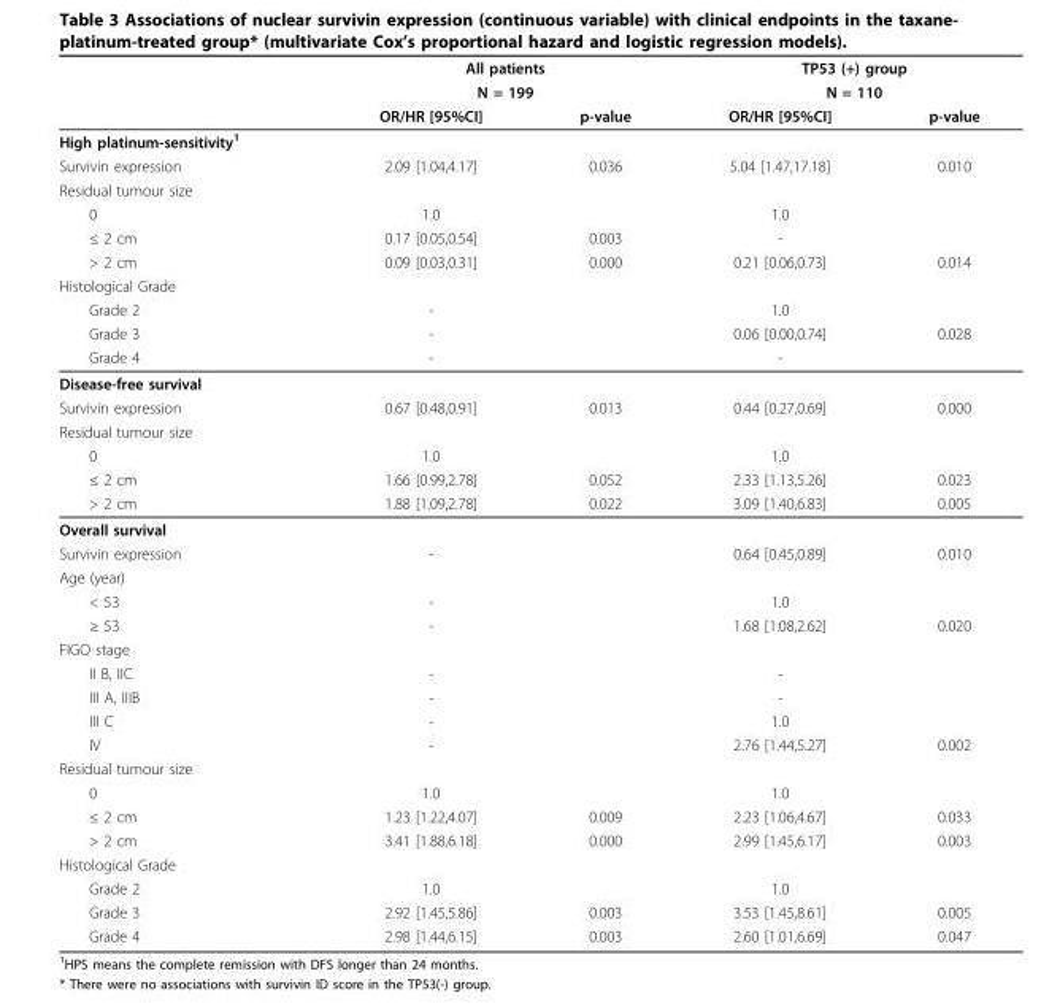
<table><thead><tr><td rowspan="3"></td><td rowspan="2" colspan="2">All patients N = 199</td><td rowspan="2" colspan="2">TP53 (+) group N = 110</td></tr><tr></tr><tr><td>OR/HR [95%CI]</td><td>p-value</td><td>OR/HR [95%CI]</td><td>p-value</td></tr></thead><tbody><tr><td colspan="5">High platinum-sensitivity<sup>1</sup></td></tr><tr><td>Survivin expression</td><td>2.09 [1.04,4.17]</td><td>0.036</td><td>5.04 [1.47,17.18]</td><td>0.010</td></tr><tr><td colspan="5">Residual tumour size</td></tr><tr><td>0</td><td>1.0</td><td></td><td>1.0</td><td></td></tr><tr><td>≤ 2 cm</td><td>0.17 [0.05,0.54]</td><td>0.003</td><td>-</td><td></td></tr><tr><td>&gt; 2 cm</td><td>0.09 [0.03,0.31]</td><td>0.000</td><td>0.21 [0.06,0.73]</td><td>0.014</td></tr><tr><td colspan="5">Histological Grade</td></tr><tr><td>Grade 2</td><td>-</td><td></td><td>1.0</td><td></td></tr><tr><td>Grade 3</td><td>-</td><td></td><td>0.06 [0.00,0.74]</td><td>0.028</td></tr><tr><td>Grade 4</td><td>-</td><td></td><td>-</td><td></td></tr><tr><td colspan="5">Disease-free survival</td></tr><tr><td>Survivin expression</td><td>0.67 [0.48,0.91]</td><td>0.013</td><td>0.44 [0.27,0.69]</td><td>0.000</td></tr><tr><td colspan="5">Residual tumour size</td></tr><tr><td>0</td><td>1.0</td><td></td><td>1.0</td><td></td></tr><tr><td>≤ 2 cm</td><td>1.66 [0.99,2.78]</td><td>0.052</td><td>2.33 [1.13,5.26]</td><td>0.023</td></tr><tr><td>&gt; 2 cm</td><td>1.88 [1.09,2.78]</td><td>0.022</td><td>3.09 [1.40,6.83]</td><td>0.005</td></tr><tr><td colspan="5">Overall survival</td></tr><tr><td>Survivin expression</td><td>-</td><td></td><td>0.64 [0.45,0.89]</td><td>0.010</td></tr><tr><td colspan="5">Age (year)</td></tr><tr><td>&lt; 53</td><td>-</td><td></td><td>1.0</td><td></td></tr><tr><td>≥ 53</td><td>-</td><td></td><td>1.68 [1.08,2.62]</td><td>0.020</td></tr><tr><td colspan="5">FIGO stage</td></tr><tr><td>II B, IIC</td><td>-</td><td></td><td>-</td><td></td></tr><tr><td>III A, IIIB</td><td>-</td><td></td><td>-</td><td></td></tr><tr><td>III C</td><td>-</td><td></td><td>1.0</td><td></td></tr><tr><td>IV</td><td>-</td><td></td><td>2.76 [1.44,5.27]</td><td>0.002</td></tr><tr><td colspan="5">Residual tumour size</td></tr><tr><td>0</td><td>1.0</td><td></td><td>1.0</td><td></td></tr><tr><td>≤ 2 cm</td><td>1.23 [1.22,4.07]</td><td>0.009</td><td>2.23 [1.06,4.67]</td><td>0.033</td></tr><tr><td>&gt; 2 cm</td><td>3.41 [1.88,6.18]</td><td>0.000</td><td>2.99 [1.45,6.17]</td><td>0.003</td></tr><tr><td colspan="5">Histological Grade</td></tr><tr><td>Grade 2</td><td>1.0</td><td></td><td>1.0</td><td></td></tr><tr><td>Grade 3</td><td>2.92 [1.45,5.86]</td><td>0.003</td><td>3.53 [1.45,8.61]</td><td>0.005</td></tr><tr><td>Grade 4</td><td>2.98 [1.44,6.15]</td><td>0.003</td><td>2.60 [1.01,6.69]</td><td>0.047</td></tr></tbody></table>